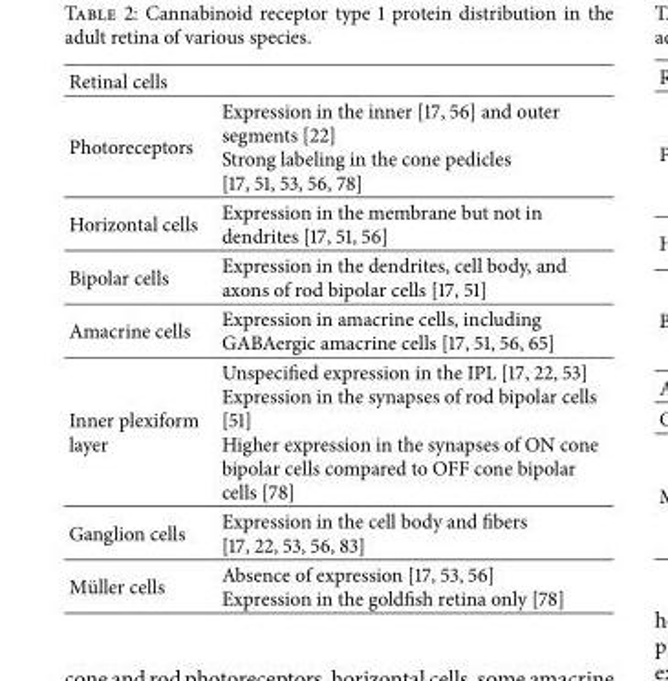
<table><tbody><tr><td colspan="2">Retinal cells</td></tr><tr><td>Photoreceptors</td><td>Expression in the inner [17, 56] and outer segments [22] Strong labeling in the cone pedicles [17, 51, 53, 56, 78]</td></tr><tr><td>Horizontal cells</td><td>Expression in the membrane but not in dendrites [17, 51, 56]</td></tr><tr><td>Bipolar cells</td><td>Expression in the dendrites, cell body, and axons of rod bipolar cells [17, 51]</td></tr><tr><td>Amacrine cells</td><td>Expression in amacrine cells, including GABAergic amacrine cells [17, 51, 56, 65]</td></tr><tr><td>Inner plexiform layer</td><td>Unspecified expression in the IPL [17, 22, 53] Expression in the synapses of rod bipolar cells [51] Higher expression in the synapses of ON cone bipolar cells compared to OFF cone bipolar cells [78]</td></tr><tr><td>Ganglion cells</td><td>Expression in the cell body and fibers [17, 22, 53, 56, 83]</td></tr><tr><td>M¨uller cells</td><td>Absence of expression [17, 53, 56] Expression in the goldfish retina only [78]</td></tr></tbody></table>